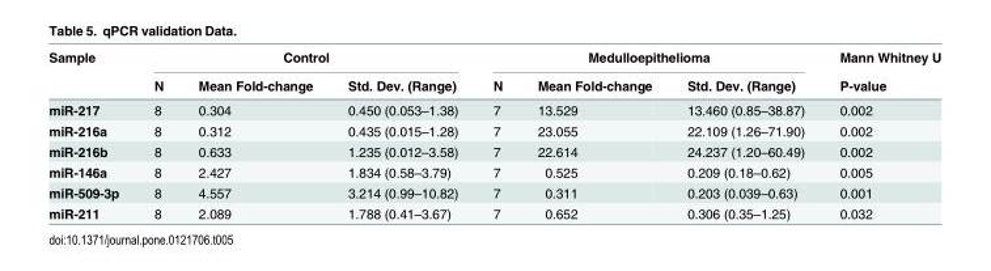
<table><thead><tr><td rowspan="2">Sample</td><td colspan="3">Control</td><td colspan="3">Medulloepithelioma</td><td rowspan="2">Mann Whitney U P-value</td></tr><tr><td>N</td><td>Mean Fold-change</td><td>Std. Dev. (Range)</td><td>N</td><td>Mean Fold-change</td><td>Std. Dev. (Range)</td></tr></thead><tbody><tr><td>miR-217</td><td>8</td><td>0.304</td><td>0.450 (0.053–1.38)</td><td>7</td><td>13.529</td><td>13.460 (0.85–38.87)</td><td>0.002</td></tr><tr><td>miR-216a</td><td>8</td><td>0.312</td><td>0.435 (0.015–1.28)</td><td>7</td><td>23.055</td><td>22.109 (1.26–71.90)</td><td>0.002</td></tr><tr><td>miR-216b</td><td>8</td><td>0.633</td><td>1.235 (0.012–3.58)</td><td>7</td><td>22.614</td><td>24.237 (1.20–60.49)</td><td>0.002</td></tr><tr><td>miR-146a</td><td>8</td><td>2.427</td><td>1.834 (0.58–3.79)</td><td>7</td><td>0.525</td><td>0.209 (0.18–0.62)</td><td>0.005</td></tr><tr><td>miR-509-3p</td><td>8</td><td>4.557</td><td>3.214 (0.99–10.82)</td><td>7</td><td>0.311</td><td>0.203 (0.039–0.63)</td><td>0.001</td></tr><tr><td>miR-211</td><td>8</td><td>2.089</td><td>1.788 (0.41–3.67)</td><td>7</td><td>0.652</td><td>0.306 (0.35–1.25)</td><td>0.032</td></tr></tbody></table>